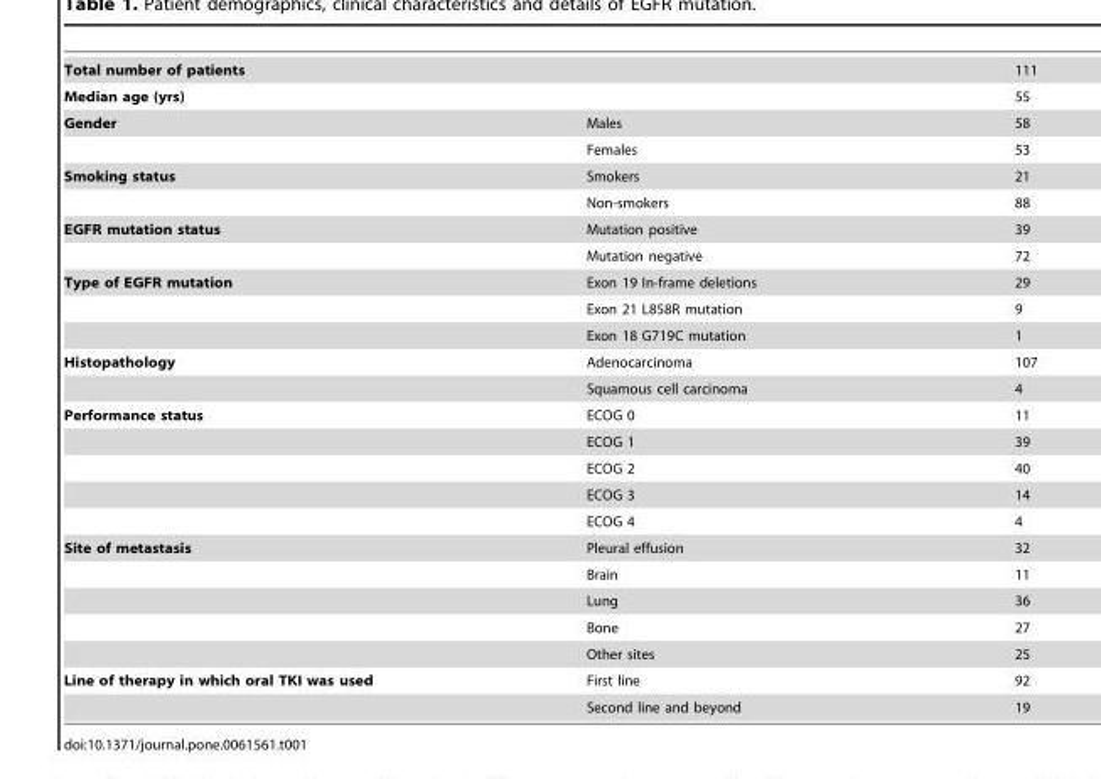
<table><tbody><tr><td colspan="2">Total number of patients</td><td>111</td></tr><tr><td colspan="2">Median age (yrs)</td><td>55</td></tr><tr><td rowspan="2">Gender</td><td>Males</td><td>58</td></tr><tr><td>Females</td><td>53</td></tr><tr><td rowspan="2">Smoking status</td><td>Smokers</td><td>21</td></tr><tr><td>Non-smokers</td><td>88</td></tr><tr><td rowspan="2">EGFR mutation status</td><td>Mutation positive</td><td>39</td></tr><tr><td>Mutation negative</td><td>72</td></tr><tr><td rowspan="3">Type of EGFR mutation</td><td>Exon 19 In-frame deletions</td><td>29</td></tr><tr><td>Exon 21 L858R mutation</td><td>9</td></tr><tr><td>Exon 18 G719C mutation</td><td>1</td></tr><tr><td rowspan="2">Histopathology</td><td>Adenocarcinoma</td><td>107</td></tr><tr><td>Squamous cell carcinoma</td><td>4</td></tr><tr><td rowspan="5">Performance status</td><td>ECOG 0</td><td>11</td></tr><tr><td>ECOG 1</td><td>39</td></tr><tr><td>ECOG 2</td><td>40</td></tr><tr><td>ECOG 3</td><td>14</td></tr><tr><td>ECOG 4</td><td>4</td></tr><tr><td rowspan="5">Site of metastasis</td><td>Pleural effusion</td><td>32</td></tr><tr><td>Brain</td><td>11</td></tr><tr><td>Lung</td><td>36</td></tr><tr><td>Bone</td><td>27</td></tr><tr><td>Other sites</td><td>25</td></tr><tr><td rowspan="2">Line of therapy in which oral TKI was used</td><td>First line</td><td>92</td></tr><tr><td>Second line and beyond</td><td>19</td></tr></tbody></table>